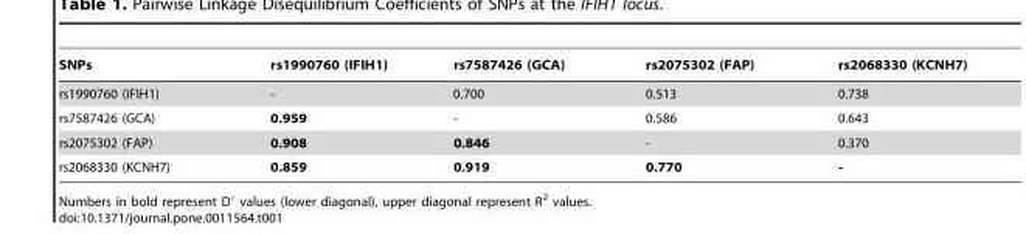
<table><thead><tr><td>SNPs</td><td>rs1990760 (IFIH1)</td><td>rs7587426 (GCA)</td><td>rs2075302 (FAP)</td><td>rs2068330 (KCNH7)</td></tr></thead><tbody><tr><td>rs1990760 (IFIH1)</td><td>-</td><td>0.700</td><td>0.513</td><td>0.738</td></tr><tr><td>rs7587426 (GCA)</td><td>0.959</td><td>-</td><td>0.586</td><td>0.643</td></tr><tr><td>rs2075302 (FAP)</td><td>0.908</td><td>0.846</td><td>-</td><td>0.370</td></tr><tr><td>rs2068330 (KCNH7)</td><td>0.859</td><td>0.919</td><td>0.770</td><td>-</td></tr></tbody></table>